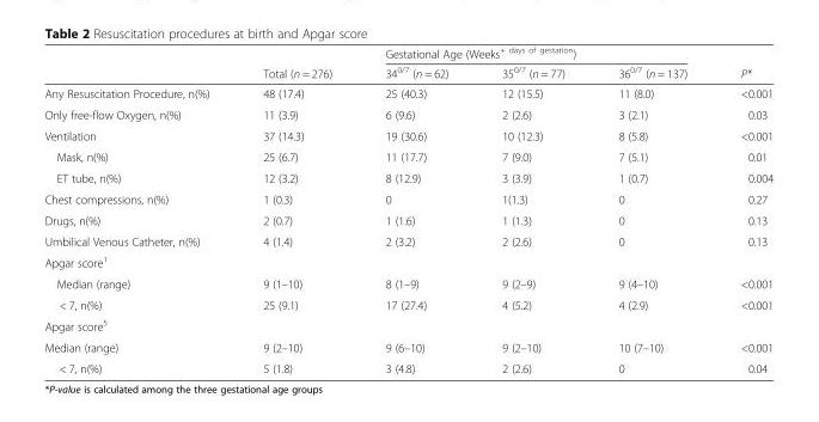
<table><thead><tr><td rowspan="2"></td><td rowspan="2">Total (n = 276)</td><td colspan="3">Gestational Age (Weeks<sup>+ days of gestation</sup>)</td><td rowspan="2">P*</td></tr><tr><td>34<sup>0/7</sup> (n = 62)</td><td>35<sup>0/7</sup> (n = 77)</td><td>36<sup>0/7</sup> (n = 137)</td></tr></thead><tbody><tr><td>Any Resuscitation Procedure, n(%)</td><td>48 (17.4)</td><td>25 (40.3)</td><td>12 (15.5)</td><td>11 (8.0)</td><td>&lt;0.001</td></tr><tr><td>Only free-flow Oxygen, n(%)</td><td>11 (3.9)</td><td>6 (9.6)</td><td>2 (2.6)</td><td>3 (2.1)</td><td>0.03</td></tr><tr><td>Ventilation</td><td>37 (14.3)</td><td>19 (30.6)</td><td>10 (12.3)</td><td>8 (5.8)</td><td>&lt;0.001</td></tr><tr><td>Mask, n(%)</td><td>25 (6.7)</td><td>11 (17.7)</td><td>7 (9.0)</td><td>7 (5.1)</td><td>0.01</td></tr><tr><td>ET tube, n(%)</td><td>12 (3.2)</td><td>8 (12.9)</td><td>3 (3.9)</td><td>1 (0.7)</td><td>0.004</td></tr><tr><td>Chest compressions, n(%)</td><td>1 (0.3)</td><td>0</td><td>1(1.3)</td><td>0</td><td>0.27</td></tr><tr><td>Drugs, n(%)</td><td>2 (0.7)</td><td>1 (1.6)</td><td>1 (1.3)</td><td>0</td><td>0.13</td></tr><tr><td>Umbilical Venous Catheter, n(%)</td><td>4 (1.4)</td><td>2 (3.2)</td><td>2 (2.6)</td><td>0</td><td>0.13</td></tr><tr><td colspan="6">Apgar score<sup>1</sup></td></tr><tr><td>Median (range)</td><td>9 (1–10)</td><td>8 (1–9)</td><td>9 (2–9)</td><td>9 (4–10)</td><td>&lt;0.001</td></tr><tr><td>&lt; 7, n(%)</td><td>25 (9.1)</td><td>17 (27.4)</td><td>4 (5.2)</td><td>4 (2.9)</td><td>&lt;0.001</td></tr><tr><td colspan="6">Apgar score<sup>5</sup></td></tr><tr><td>Median (range)</td><td>9 (2–10)</td><td>9 (6–10)</td><td>9 (2–10)</td><td>10 (7–10)</td><td>&lt;0.001</td></tr><tr><td>&lt; 7, n(%)</td><td>5 (1.8)</td><td>3 (4.8)</td><td>2 (2.6)</td><td>0</td><td>0.04</td></tr></tbody></table>